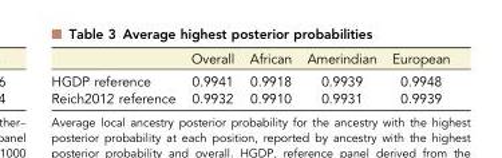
<table><thead><tr><td></td><td>Overall</td><td>African</td><td>Amerindian</td><td>European</td></tr></thead><tbody><tr><td>HGDP reference</td><td>0.9941</td><td>0.9918</td><td>0.9939</td><td>0.9948</td></tr><tr><td>Reich2012 reference</td><td>0.9932</td><td>0.9910</td><td>0.9931</td><td>0.9939</td></tr></tbody></table>